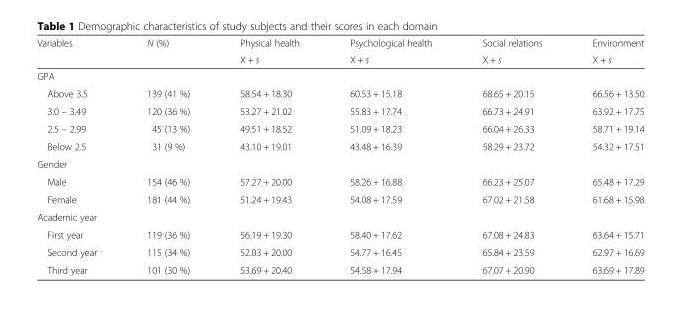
<table><thead><tr><td rowspan="2">Variables</td><td rowspan="2">N (%)</td><td rowspan="2">Physical health X + s</td><td rowspan="2">Psychological health X + s</td><td rowspan="2">Social relations X + s</td><td rowspan="2">Environment X + s</td></tr><tr></tr></thead><tbody><tr><td colspan="6">GPA</td></tr><tr><td>Above 3.5</td><td>139 (41 %)</td><td>58.54 + 18.30</td><td>60.53 + 15.18</td><td>68.65 + 20.15</td><td>66.56 + 13.50</td></tr><tr><td>3.0 – 3.49</td><td>120 (36 %)</td><td>53.27 + 21.02</td><td>55.83 + 17.74</td><td>66.73 + 24.91</td><td>63.92 + 17.75</td></tr><tr><td>2.5 – 2.99</td><td>45 (13 %)</td><td>49.51 + 18.52</td><td>51.09 + 18.23</td><td>66.04 + 26.33</td><td>58.71 + 19.14</td></tr><tr><td>Below 2.5</td><td>31 (9 %)</td><td>43.10 + 19.01</td><td>43.48 + 16.39</td><td>58.29 + 23.72</td><td>54.32 + 17.51</td></tr><tr><td colspan="6">Gender</td></tr><tr><td>Male</td><td>154 (46 %)</td><td>57.27 + 20.00</td><td>58.26 + 16.88</td><td>66.23 + 25.07</td><td>65.48 + 17.29</td></tr><tr><td>Female</td><td>181 (44 %)</td><td>51.24 + 19.43</td><td>54.08 + 17.59</td><td>67.02 + 21.58</td><td>61.68 + 15.98</td></tr><tr><td colspan="6">Academic year</td></tr><tr><td>First year</td><td>119 (36 %)</td><td>56.19 + 19.30</td><td>58.40 + 17.62</td><td>67.08 + 24.83</td><td>63.64 + 15.71</td></tr><tr><td>Second year</td><td>115 (34 %)</td><td>52.03 + 20.00</td><td>54.77 + 16.45</td><td>65.84 + 23.59</td><td>62.97 + 16.69</td></tr><tr><td>Third year</td><td>101 (30 %)</td><td>53.69 + 20.40</td><td>54.58 + 17.94</td><td>67.07 + 20.90</td><td>63.69 + 17.89</td></tr></tbody></table>